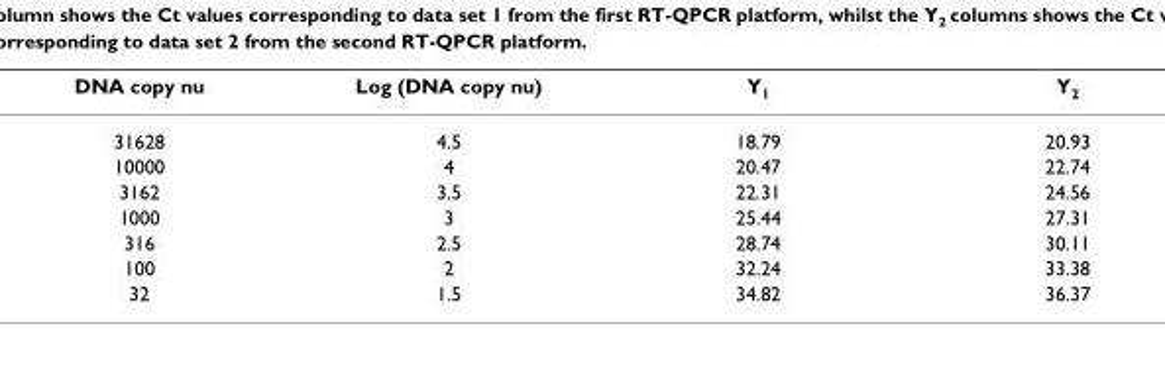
<table><thead><tr><td>DNA copy nu</td><td>Log (DNA copy nu)</td><td>Y1</td><td>Y2</td></tr></thead><tbody><tr><td>31628</td><td>4.5</td><td>18.79</td><td>20.93</td></tr><tr><td>10000</td><td>4</td><td>20.47</td><td>22.74</td></tr><tr><td>3162</td><td>3.5</td><td>22.31</td><td>24.56</td></tr><tr><td>1000</td><td>3</td><td>25.44</td><td>27.31</td></tr><tr><td>316</td><td>2.5</td><td>28.74</td><td>30.11</td></tr><tr><td>100</td><td>2</td><td>32.24</td><td>33.38</td></tr><tr><td>32</td><td>1.5</td><td>34.82</td><td>36.37</td></tr></tbody></table>